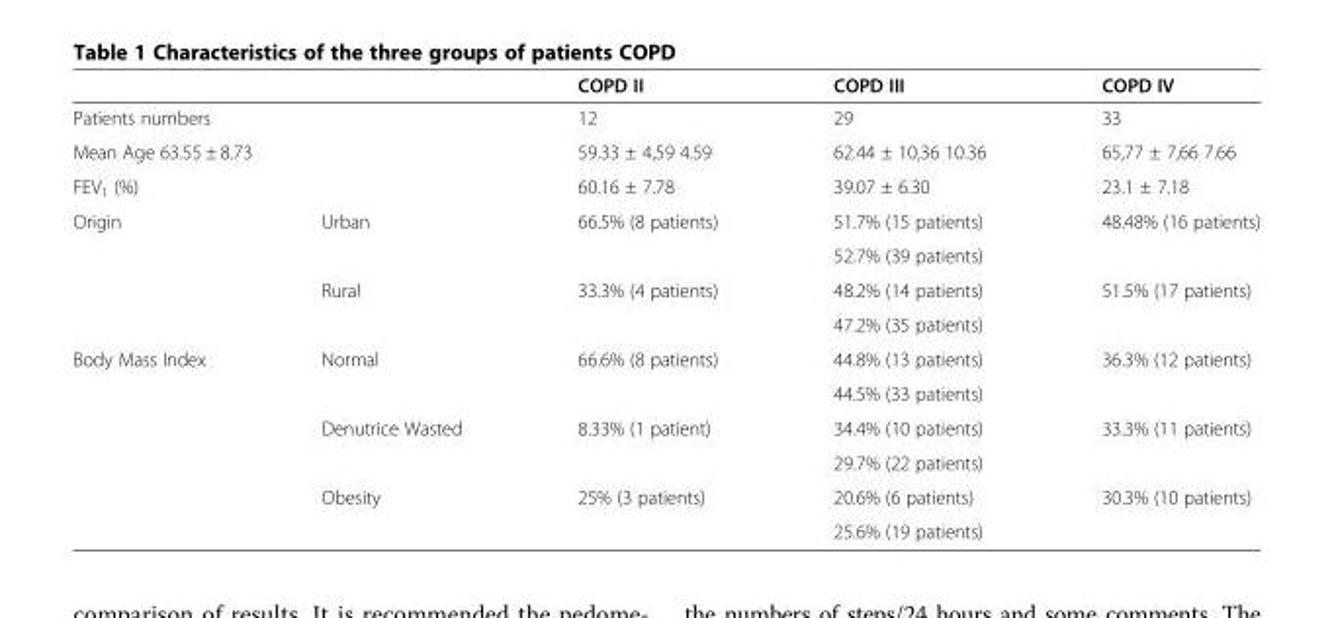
<table><thead><tr><td></td><td></td><td>COPD II</td><td>COPD III</td><td>COPD IV</td></tr></thead><tbody><tr><td colspan="2">Patients numbers</td><td>12</td><td>29</td><td>33</td></tr><tr><td colspan="2">Mean Age 63.55 ± 8.73</td><td>59.33 ± 4,59 4.59</td><td>62.44 ± 10,36 10.36</td><td>65,77 ± 7,66 7.66</td></tr><tr><td colspan="2">FEV<sub>1</sub> (%)</td><td>60.16 ± 7.78</td><td>39.07 ± 6.30</td><td>23.1 ± 7.18</td></tr><tr><td rowspan="4">Origin</td><td>Urban</td><td>66.5% (8 patients)</td><td>51.7% (15 patients)</td><td>48.48% (16 patients)</td></tr><tr><td></td><td></td><td colspan="2">52.7% (39 patients)</td></tr><tr><td>Rural</td><td>33.3% (4 patients)</td><td>48.2% (14 patients)</td><td>51.5% (17 patients)</td></tr><tr><td></td><td></td><td colspan="2">47.2% (35 patients)</td></tr><tr><td rowspan="6">Body Mass Index</td><td>Normal</td><td>66.6% (8 patients)</td><td>44.8% (13 patients)</td><td>36.3% (12 patients)</td></tr><tr><td></td><td></td><td colspan="2">44.5% (33 patients)</td></tr><tr><td>Denutrice Wasted</td><td>8.33% (1 patient)</td><td>34.4% (10 patients)</td><td>33.3% (11 patients)</td></tr><tr><td></td><td></td><td colspan="2">29.7% (22 patients)</td></tr><tr><td>Obesity</td><td>25% (3 patients)</td><td>20.6% (6 patients)</td><td>30.3% (10 patients)</td></tr><tr><td></td><td></td><td colspan="2">25.6% (19 patients)</td></tr></tbody></table>